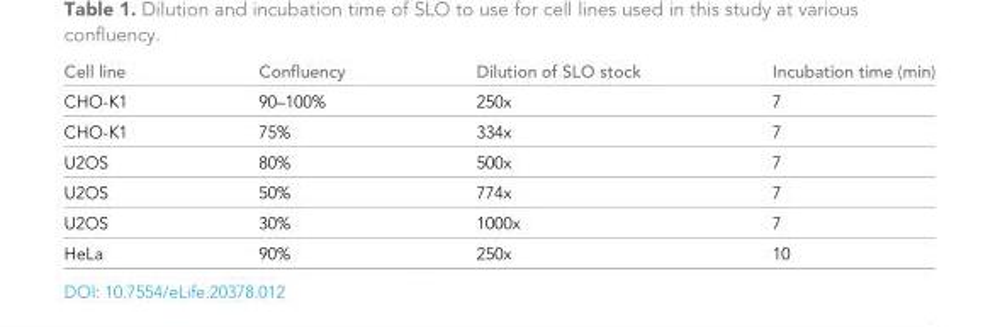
<table><thead><tr><td>Cell line</td><td>Confluency</td><td>Dilution of SLO stock</td><td>Incubation time (min)</td></tr></thead><tbody><tr><td>CHO-K1</td><td>90–100%</td><td>250x</td><td>7</td></tr><tr><td>CHO-K1</td><td>75%</td><td>334x</td><td>7</td></tr><tr><td>U2OS</td><td>80%</td><td>500x</td><td>7</td></tr><tr><td>U2OS</td><td>50%</td><td>774x</td><td>7</td></tr><tr><td>U2OS</td><td>30%</td><td>1000x</td><td>7</td></tr><tr><td>HeLa</td><td>90%</td><td>250x</td><td>10</td></tr></tbody></table>